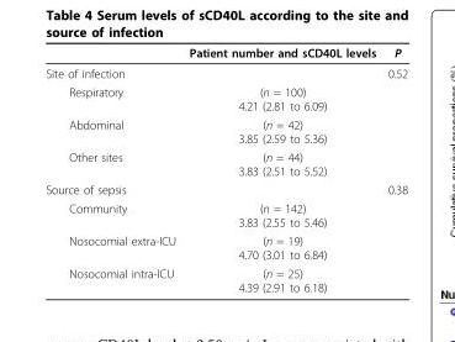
<table><thead><tr><td></td><td>Patient number and sCD40L levels</td><td>P</td></tr></thead><tbody><tr><td>Site of infection</td><td></td><td>0.52</td></tr><tr><td>Respiratory</td><td>(n = 100) 4.21 (2.81 to 6.09)</td><td></td></tr><tr><td>Abdominal</td><td>(n = 42) 3.85 (2.59 to 5.36)</td><td></td></tr><tr><td>Other sites</td><td>(n = 44) 3.83 (2.51 to 5.52)</td><td></td></tr><tr><td>Source of sepsis</td><td></td><td>0.38</td></tr><tr><td>Community</td><td>(n = 142) 3.83 (2.55 to 5.46)</td><td></td></tr><tr><td>Nosocomial extra-ICU</td><td>(n = 19) 4.70 (3.01 to 6.84)</td><td></td></tr><tr><td>Nosocomial intra-ICU</td><td>(n = 25) 4.39 (2.91 to 6.18)</td><td></td></tr></tbody></table>